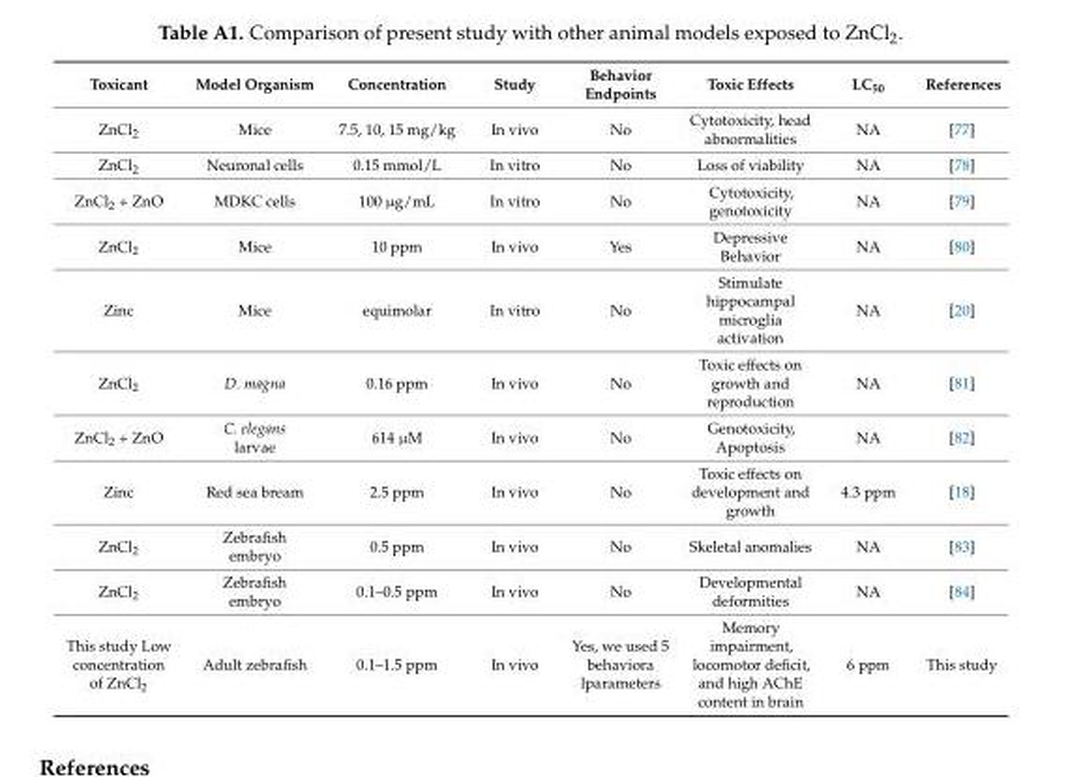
<table><thead><tr><td>Toxicant</td><td>Model Organism</td><td>Concentration</td><td>Study</td><td>Behavior Endpoints</td><td>Toxic Effects</td><td>LC<sub>50</sub></td><td>References</td></tr></thead><tbody><tr><td>ZnCl<sub>2</sub></td><td>Mice</td><td>7.5, 10, 15 mg/kg</td><td>In vivo</td><td>No</td><td>Cytotoxicity, head abnormalities</td><td>NA</td><td>[77]</td></tr><tr><td>ZnCl<sub>2</sub></td><td>Neuronal cells</td><td>0.15 mmol/L</td><td>In vitro</td><td>No</td><td>Loss of viability</td><td>NA</td><td>[78]</td></tr><tr><td>ZnCl<sub>2</sub> + ZnO</td><td>MDKC cells</td><td>100 µg/mL</td><td>In vitro</td><td>No</td><td>Cytotoxicity, genotoxicity</td><td>NA</td><td>[79]</td></tr><tr><td>ZnCl<sub>2</sub></td><td>Mice</td><td>10 ppm</td><td>In vivo</td><td>Yes</td><td>Depressive Behavior</td><td>NA</td><td>[80]</td></tr><tr><td>Zinc</td><td>Mice</td><td>equimolar</td><td>In vitro</td><td>No</td><td>Stimulate hippocampal microglia activation</td><td>NA</td><td>[20]</td></tr><tr><td>ZnCl<sub>2</sub></td><td>D. magna</td><td>0.16 ppm</td><td>In vivo</td><td>No</td><td>Toxic effects on growth and reproduction</td><td>NA</td><td>[81]</td></tr><tr><td>ZnCl<sub>2</sub> + ZnO</td><td>C. elegans larvae</td><td>614 µM</td><td>In vivo</td><td>No</td><td>Genotoxicity, Apoptosis</td><td>NA</td><td>[82]</td></tr><tr><td>Zinc</td><td>Red sea bream</td><td>2.5 ppm</td><td>In vivo</td><td>No</td><td>Toxic effects on development and growth</td><td>4.3 ppm</td><td>[18]</td></tr><tr><td>ZnCl<sub>2</sub></td><td>Zebrafish embryo</td><td>0.5 ppm</td><td>In vivo</td><td>No</td><td>Skeletal anomalies</td><td>NA</td><td>[83]</td></tr><tr><td>ZnCl<sub>2</sub></td><td>Zebrafish embryo</td><td>0.1–0.5 ppm</td><td>In vivo</td><td>No</td><td>Developmental deformities</td><td>NA</td><td>[84]</td></tr><tr><td>This study Low concentration of ZnCl<sub>2</sub></td><td>Adult zebrafish</td><td>0.1–1.5 ppm</td><td>In vivo</td><td>Yes, we used 5 behaviora lparameters</td><td>Memory impairment, locomotor deficit, and high AChE content in brain</td><td>6 ppm</td><td>This study</td></tr></tbody></table>